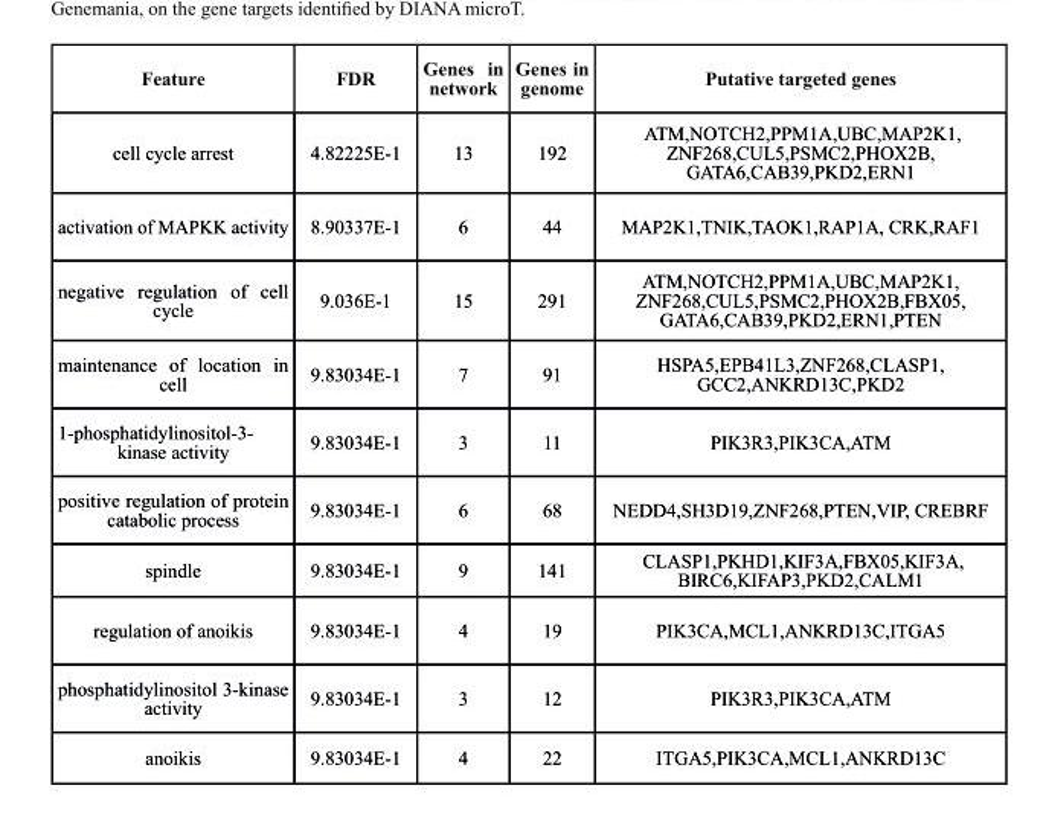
<table><thead><tr><td>Feature</td><td>Fdr</td><td>Genes in network</td><td>Genes in genome</td><td>Putative targeted genes</td></tr></thead><tbody><tr><td>cell cycle arrest</td><td>4.82225E-1</td><td>13</td><td>192</td><td>ATM,NOTCH2,PPM1A,UBC,MAP2K1, ZNF268,CUL5,PSMC2,PHOX2B, GATA6,CAB39,PKD2,ERN1</td></tr><tr><td>activation of MAPKK activity</td><td>8.90337E-1</td><td>6</td><td>44</td><td>MAP2K1,TNIK,TAOK1,RAP1A, CRK,RAF1</td></tr><tr><td>negative regulation of cell cycle</td><td>9.036E-1</td><td>15</td><td>291</td><td>ATM,NOTCH2,PPM1A,UBC,MAP2K1, ZNF268,CUL5,PSMC2,PHOX2B,FBX05, GATA6,CAB39,PKD2,ERN1,PTEN</td></tr><tr><td>maintenance of location in cell</td><td>9.83034E-1</td><td>7</td><td>91</td><td>HSPA5,EPB41L3,ZNF268,CLASP1, GCC2,ANKRD13C,PKD2</td></tr><tr><td>1-phosphatidylinositol-3- kinase activity</td><td>9.83034E-1</td><td>3</td><td>11</td><td>PIK3R3,PIK3CA,ATM</td></tr><tr><td>positive regulation of protein catabolic process</td><td>9.83034E-1</td><td>6</td><td>68</td><td>NEDD4,SH3D19,ZNF268,PTEN,VIP, CREBRF</td></tr><tr><td>spindle</td><td>9.83034E-1</td><td>9</td><td>141</td><td>CLASP1,PKHD1,KIF3A,FBX05,KIF3A, BIRC6,KIFAP3,PKD2,CALM1</td></tr><tr><td>regulation of anoikis</td><td>9.83034E-1</td><td>4</td><td>19</td><td>PIK3CA,MCL1,ANKRD13C,ITGA5</td></tr><tr><td>phosphatidylinositol 3-kinase activity</td><td>9.83034E-1</td><td>3</td><td>12</td><td>PIK3R3,PIK3CA,ATM</td></tr><tr><td>anoikis</td><td>9.83034E-1</td><td>4</td><td>22</td><td>ITGA5,PIK3CA,MCL1,ANKRD13C</td></tr></tbody></table>